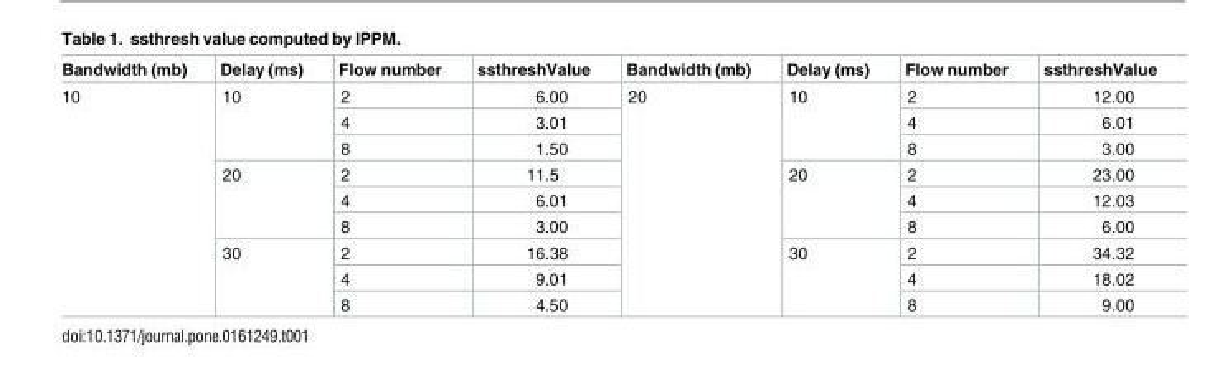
<table><thead><tr><td>Bandwidth (mb)</td><td>Delay (ms)</td><td>Flow number</td><td>ssthreshValue</td><td>Bandwidth (mb)</td><td>Delay (ms)</td><td>Flow number</td><td>ssthreshValue</td></tr></thead><tbody><tr><td rowspan="9">10</td><td rowspan="3">10</td><td>2</td><td>6.00</td><td rowspan="9">20</td><td rowspan="3">10</td><td>2</td><td>12.00</td></tr><tr><td>4</td><td>3.01</td><td>4</td><td>6.01</td></tr><tr><td>8</td><td>1.50</td><td>8</td><td>3.00</td></tr><tr><td rowspan="3">20</td><td>2</td><td>11.5</td><td rowspan="3">20</td><td>2</td><td>23.00</td></tr><tr><td>4</td><td>6.01</td><td>4</td><td>12.03</td></tr><tr><td>8</td><td>3.00</td><td>8</td><td>6.00</td></tr><tr><td rowspan="3">30</td><td>2</td><td>16.38</td><td rowspan="3">30</td><td>2</td><td>34.32</td></tr><tr><td>4</td><td>9.01</td><td>4</td><td>18.02</td></tr><tr><td>8</td><td>4.50</td><td>8</td><td>9.00</td></tr></tbody></table>